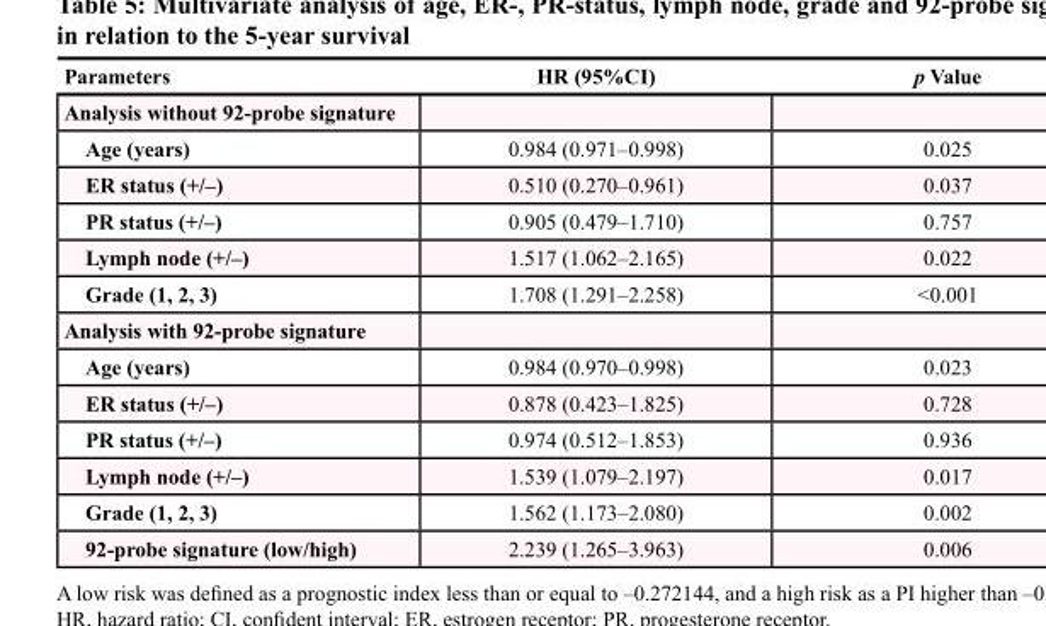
<table><thead><tr><td>Parameters</td><td>HR (95%CI)</td><td>p Value</td></tr></thead><tbody><tr><td colspan="3">Analysis without 92-probe signature</td></tr><tr><td>Age (years)</td><td>0.984 (0.971–0.998)</td><td>0.025</td></tr><tr><td>ER status (+/–)</td><td>0.510 (0.270–0.961)</td><td>0.037</td></tr><tr><td>PR status (+/–)</td><td>0.905 (0.479–1.710)</td><td>0.757</td></tr><tr><td>Lymph node (+/–)</td><td>1.517 (1.062–2.165)</td><td>0.022</td></tr><tr><td>Grade (1, 2, 3)</td><td>1.708 (1.291–2.258)</td><td>&lt;0.001</td></tr><tr><td colspan="3">Analysis with 92-probe signature</td></tr><tr><td>Age (years)</td><td>0.984 (0.970–0.998)</td><td>0.023</td></tr><tr><td>ER status (+/–)</td><td>0.878 (0.423–1.825)</td><td>0.728</td></tr><tr><td>PR status (+/–)</td><td>0.974 (0.512–1.853)</td><td>0.936</td></tr><tr><td>Lymph node (+/–)</td><td>1.539 (1.079–2.197)</td><td>0.017</td></tr><tr><td>Grade (1, 2, 3)</td><td>1.562 (1.173–2.080)</td><td>0.002</td></tr><tr><td>92-probe signature (low/high)</td><td>2.239 (1.265–3.963)</td><td>0.006</td></tr></tbody></table>